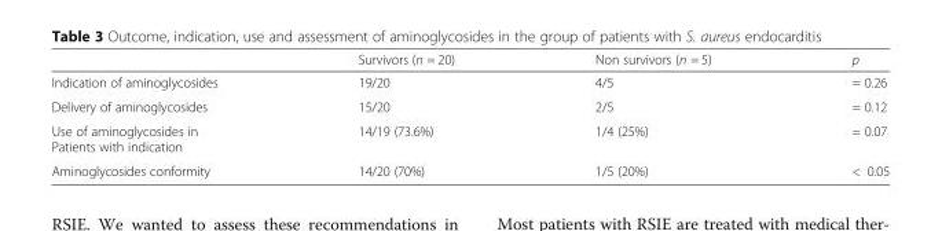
<table><thead><tr><td></td><td>Survivors (n = 20)</td><td>Non survivors (n = 5)</td><td>p</td></tr></thead><tbody><tr><td>Indication of aminoglycosides</td><td>19/20</td><td>4/5</td><td>= 0.26</td></tr><tr><td>Delivery of aminoglycosides</td><td>15/20</td><td>2/5</td><td>= 0.12</td></tr><tr><td>Use of aminoglycosides in Patients with indication</td><td>14/19 (73.6%)</td><td>1/4 (25%)</td><td>= 0.07</td></tr><tr><td>Aminoglycosides conformity</td><td>14/20 (70%)</td><td>1/5 (20%)</td><td>&lt; 0.05</td></tr></tbody></table>